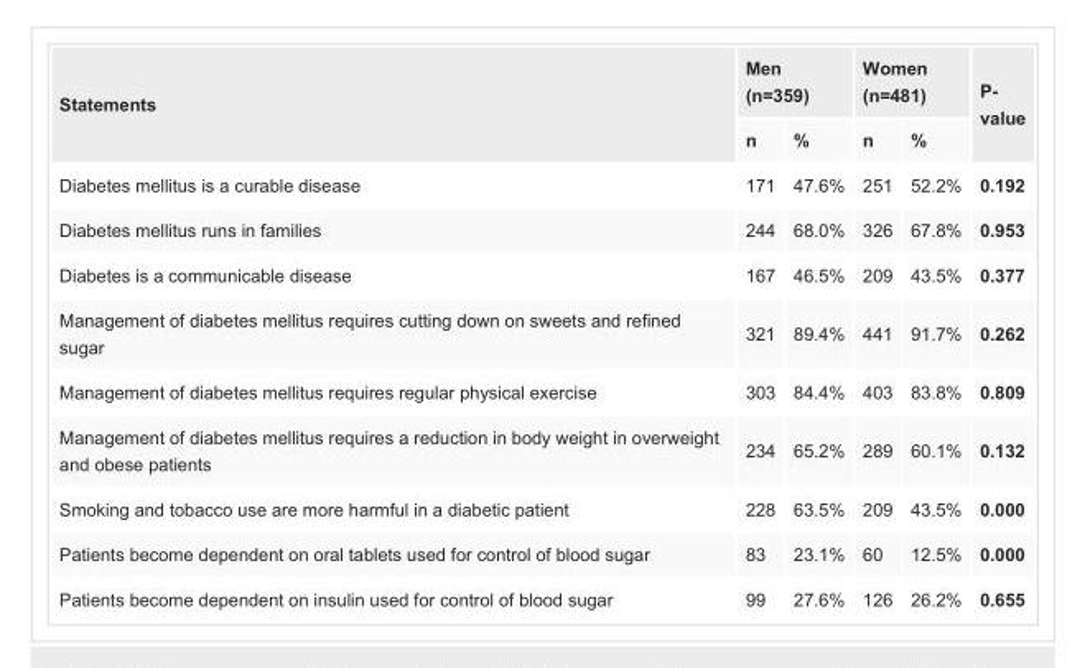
<table><tbody><tr><td rowspan="2">Statements</td><td colspan="2">Men (n=359)</td><td colspan="2">Women (n=481)</td><td rowspan="2">P- value</td></tr><tr><td>n</td><td>%</td><td>n</td><td>%</td></tr><tr><td>Diabetes mellitus is a curable disease</td><td>171</td><td>47.6%</td><td>251</td><td>52.2%</td><td>0.192</td></tr><tr><td>Diabetes mellitus runs in families</td><td>244</td><td>68.0%</td><td>326</td><td>67.8%</td><td>0.953</td></tr><tr><td>Diabetes is a communicable disease</td><td>167</td><td>46.5%</td><td>209</td><td>43.5%</td><td>0.377</td></tr><tr><td>Management of diabetes mellitus requires cutting down on sweets and refined sugar</td><td>321</td><td>89.4%</td><td>441</td><td>91.7%</td><td>0.262</td></tr><tr><td>Management of diabetes mellitus requires regular physical exercise</td><td>303</td><td>84.4%</td><td>403</td><td>83.8%</td><td>0.809</td></tr><tr><td>Management of diabetes mellitus requires a reduction in body weight in overweight and obese patients</td><td>234</td><td>65.2%</td><td>289</td><td>60.1%</td><td>0.132</td></tr><tr><td>Smoking and tobacco use are more harmful in a diabetic patient</td><td>228</td><td>63.5%</td><td>209</td><td>43.5%</td><td>0.000</td></tr><tr><td>Patients become dependent on oral tablets used for control of blood sugar</td><td>83</td><td>23.1%</td><td>60</td><td>12.5%</td><td>0.000</td></tr><tr><td>Patients become dependent on insulin used for control of blood sugar</td><td>99</td><td>27.6%</td><td>126</td><td>26.2%</td><td>0.655</td></tr></tbody></table>